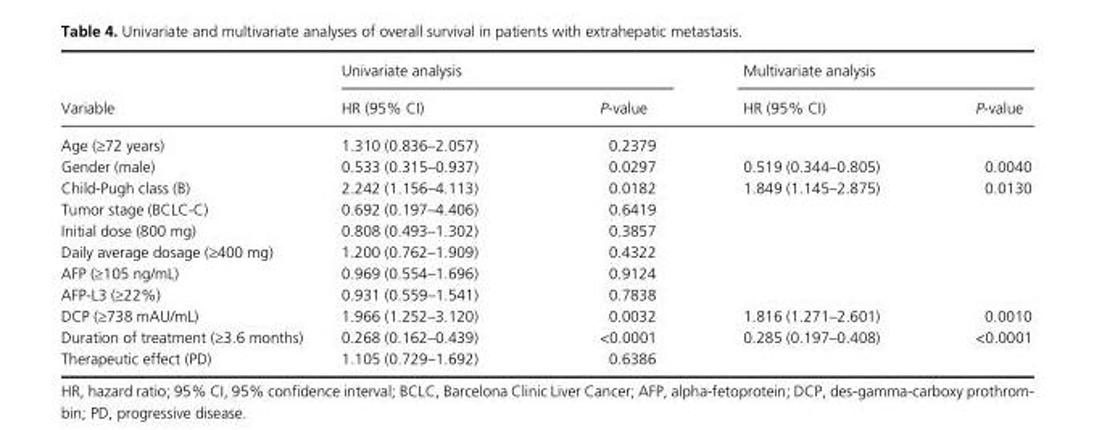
<table><thead><tr><td rowspan="2">Variable</td><td colspan="2">Univariate analysis</td><td colspan="2">Multivariate analysis</td></tr><tr><td>HR (95% CI)</td><td>P- value</td><td>HR (95% CI)</td><td>P- value</td></tr></thead><tbody><tr><td>Age (≥72 years)</td><td>1.310 (0.836–2.057)</td><td>0.2379</td><td></td><td></td></tr><tr><td>Gender (male)</td><td>0.533 (0.315–0.937)</td><td>0.0297</td><td>0.519 (0.344–0.805)</td><td>0.0040</td></tr><tr><td>Child- Pugh class (B)</td><td>2.242 (1.156–4.113)</td><td>0.0182</td><td>1.849 (1.145–2.875)</td><td>0.0130</td></tr><tr><td>Tumor stage (BCLC- C)</td><td>0.692 (0.197–4.406)</td><td>0.6419</td><td></td><td></td></tr><tr><td>Initial dose (800 mg)</td><td>0.808 (0.493–1.302)</td><td>0.3857</td><td></td><td></td></tr><tr><td>Daily average dosage (≥400 mg)</td><td>1.200 (0.762–1.909)</td><td>0.4322</td><td></td><td></td></tr><tr><td>AFP (≥105 ng/mL)</td><td>0.969 (0.554–1.696)</td><td>0.9124</td><td></td><td></td></tr><tr><td>AFP- L3 (≥22%)</td><td>0.931 (0.559–1.541)</td><td>0.7838</td><td></td><td></td></tr><tr><td>DCP (≥738 mAU/mL)</td><td>1.966 (1.252–3.120)</td><td>0.0032</td><td>1.816 (1.271–2.601)</td><td>0.0010</td></tr><tr><td>Duration of treatment (≥3.6 months)</td><td>0.268 (0.162–0.439)</td><td>&lt;0.0001</td><td>0.285 (0.197–0.408)</td><td>&lt;0.0001</td></tr><tr><td>Therapeutic effect (PD)</td><td>1.105 (0.729–1.692)</td><td>0.6386</td><td></td><td></td></tr></tbody></table>